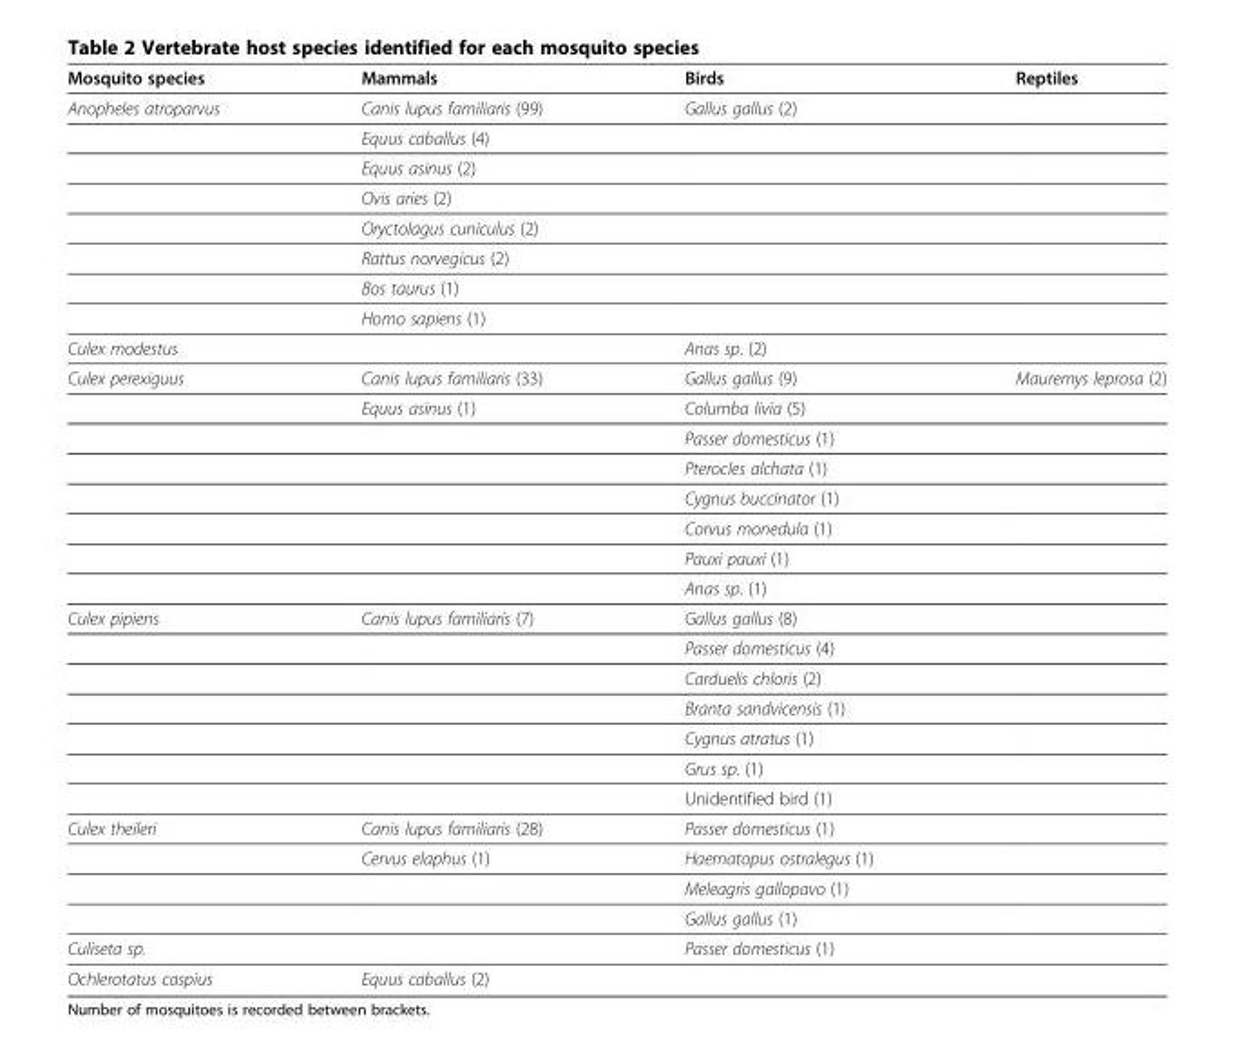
<table><thead><tr><td>Mosquito species</td><td>Mammals</td><td>Birds</td><td>Reptiles</td></tr></thead><tbody><tr><td rowspan="8">Anopheles atroparvus</td><td>Canis lupus familiaris (99)</td><td>Gallus gallus (2)</td><td></td></tr><tr><td>Equus caballus (4)</td><td></td><td></td></tr><tr><td>Equus asinus (2)</td><td></td><td></td></tr><tr><td>Ovis aries (2)</td><td></td><td></td></tr><tr><td>Oryctolagus cuniculus (2)</td><td></td><td></td></tr><tr><td>Rattus norvegicus (2)</td><td></td><td></td></tr><tr><td>Bos taurus (1)</td><td></td><td></td></tr><tr><td>Homo sapiens (1)</td><td></td><td></td></tr><tr><td>Culex modestus</td><td></td><td>Anas sp. (2)</td><td></td></tr><tr><td rowspan="8">Culex perexiguus</td><td>Canis lupus familiaris (33)</td><td>Gallus gallus (9)</td><td>Mauremys leprosa (2)</td></tr><tr><td>Equus asinus (1)</td><td>Columba livia (5)</td><td></td></tr><tr><td></td><td>Passer domesticus (1)</td><td></td></tr><tr><td></td><td>Pterocles alchata (1)</td><td></td></tr><tr><td></td><td>Cygnus buccinator (1)</td><td></td></tr><tr><td></td><td>Corvus monedula (1)</td><td></td></tr><tr><td></td><td>Pauxi pauxi (1)</td><td></td></tr><tr><td></td><td>Anas sp. (1)</td><td></td></tr><tr><td rowspan="7">Culex pipiens</td><td>Canis lupus familiaris (7)</td><td>Gallus gallus (8)</td><td></td></tr><tr><td></td><td>Passer domesticus (4)</td><td></td></tr><tr><td></td><td>Carduelis chloris (2)</td><td></td></tr><tr><td></td><td>Branta sandvicensis (1)</td><td></td></tr><tr><td></td><td>Cygnus atratus (1)</td><td></td></tr><tr><td></td><td>Grus sp. (1)</td><td></td></tr><tr><td></td><td>Unidentified bird (1)</td><td></td></tr><tr><td rowspan="4">Culex theileri</td><td>Canis lupus familiaris (28)</td><td>Passer domesticus (1)</td><td></td></tr><tr><td>Cervus elaphus (1)</td><td>Haematopus ostralegus (1)</td><td></td></tr><tr><td></td><td>Meleagris gallopavo (1)</td><td></td></tr><tr><td></td><td>Gallus gallus (1)</td><td></td></tr><tr><td>Culiseta sp.</td><td></td><td>Passer domesticus (1)</td><td></td></tr><tr><td>Ochlerotatus caspius</td><td>Equus caballus (2)</td><td></td><td></td></tr></tbody></table>